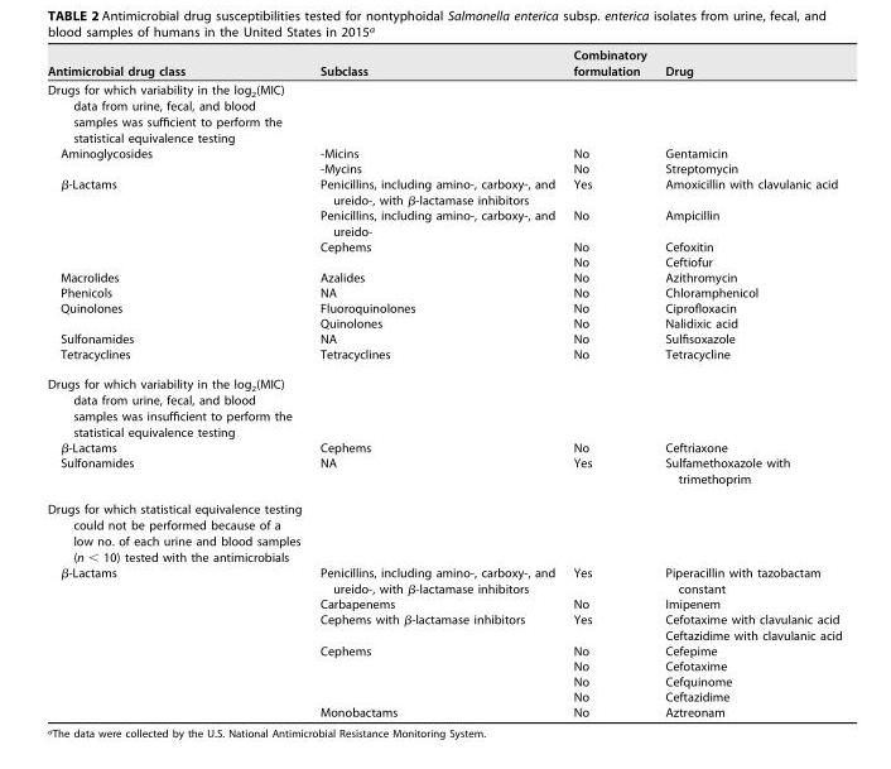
<table><thead><tr><td>Antimicrobial drug class</td><td>Subclass</td><td>Combinatory formulation</td><td>Drug</td></tr></thead><tbody><tr><td colspan="4">Drugs for which variability in the log<sub>2</sub>(MIC) data from urine, fecal, and blood samples was sufficient to perform the statistical equivalence testing</td></tr><tr><td rowspan="2">Aminoglycosides</td><td>-Micins</td><td>No</td><td>Gentamicin</td></tr><tr><td>-Mycins</td><td>No</td><td>Streptomycin</td></tr><tr><td rowspan="4">β-Lactams</td><td>Penicillins, including amino-, carboxy-, and ureido-, with β-lactamase inhibitors</td><td>Yes</td><td>Amoxicillin with clavulanic acid</td></tr><tr><td>Penicillins, including amino-, carboxy-, and ureido-</td><td>No</td><td>Ampicillin</td></tr><tr><td>Cephems</td><td>No</td><td>Cefoxitin</td></tr><tr><td></td><td>No</td><td>Ceftiofur</td></tr><tr><td>Macrolides</td><td>Azalides</td><td>No</td><td>Azithromycin</td></tr><tr><td>Phenicols</td><td>NA</td><td>No</td><td>Chloramphenicol</td></tr><tr><td rowspan="2">Quinolones</td><td>Fluoroquinolones</td><td>No</td><td>Ciprofloxacin</td></tr><tr><td>Quinolones</td><td>No</td><td>Nalidixic acid</td></tr><tr><td>Sulfonamides</td><td>NA</td><td>No</td><td>Sulfisoxazole</td></tr><tr><td>Tetracyclines</td><td>Tetracyclines</td><td>No</td><td>Tetracycline</td></tr><tr><td colspan="4">Drugs for which variability in the log<sub>2</sub>(MIC) data from urine, fecal, and blood samples was insufficient to perform the statistical equivalence testing</td></tr><tr><td>β-Lactams</td><td>Cephems</td><td>No</td><td>Ceftriaxone</td></tr><tr><td>Sulfonamides</td><td>NA</td><td>Yes</td><td>Sulfamethoxazole with trimethoprim</td></tr><tr><td colspan="4">Drugs for which statistical equivalence testing could not be performed because of a low no. of each urine and blood samples (n &lt; 10) tested with the antimicrobials</td></tr><tr><td rowspan="8">β-Lactams</td><td>Penicillins, including amino-, carboxy-, and ureido-, with β-lactamase inhibitors</td><td>Yes</td><td>Piperacillin with tazobactam constant</td></tr><tr><td>Carbapenems</td><td>No</td><td>Imipenem</td></tr><tr><td>Cephems with β-lactamase inhibitors</td><td>Yes</td><td>Cefotaxime with clavulanic acid Ceftazidime with clavulanic acid</td></tr><tr><td>Cephems</td><td>No</td><td>Cefepime</td></tr><tr><td></td><td>No</td><td>Cefotaxime</td></tr><tr><td></td><td>No</td><td>Cefquinome</td></tr><tr><td></td><td>No</td><td>Ceftazidime</td></tr><tr><td>Monobactams</td><td>No</td><td>Aztreonam</td></tr></tbody></table>